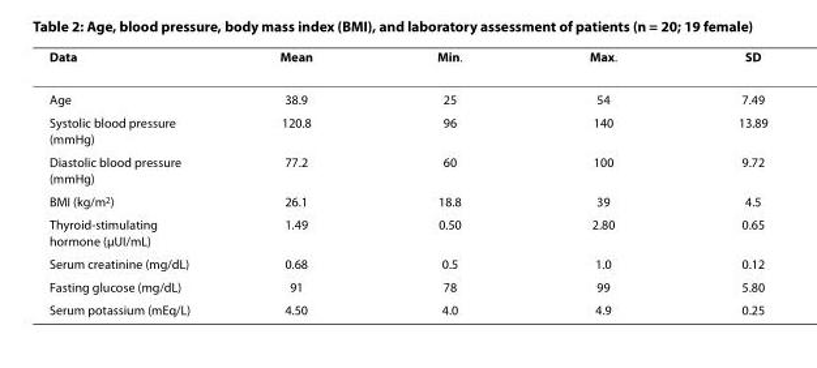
<table><thead><tr><td>Data</td><td>Mean</td><td>Min.</td><td>Max.</td><td>SD</td></tr></thead><tbody><tr><td>Age</td><td>38.9</td><td>25</td><td>54</td><td>7.49</td></tr><tr><td>Systolic blood pressure (mmHg)</td><td>120.8</td><td>96</td><td>140</td><td>13.89</td></tr><tr><td>Diastolic blood pressure (mmHg)</td><td>77.2</td><td>60</td><td>100</td><td>9.72</td></tr><tr><td>BMI (kg/m<sup>2</sup>)</td><td>26.1</td><td>18.8</td><td>39</td><td>4.5</td></tr><tr><td>Thyroid-stimulating hormone (μUI/mL)</td><td>1.49</td><td>0.50</td><td>2.80</td><td>0.65</td></tr><tr><td>Serum creatinine (mg/dL)</td><td>0.68</td><td>0.5</td><td>1.0</td><td>0.12</td></tr><tr><td>Fasting glucose (mg/dL)</td><td>91</td><td>78</td><td>99</td><td>5.80</td></tr><tr><td>Serum potassium (mEq/L)</td><td>4.50</td><td>4.0</td><td>4.9</td><td>0.25</td></tr></tbody></table>